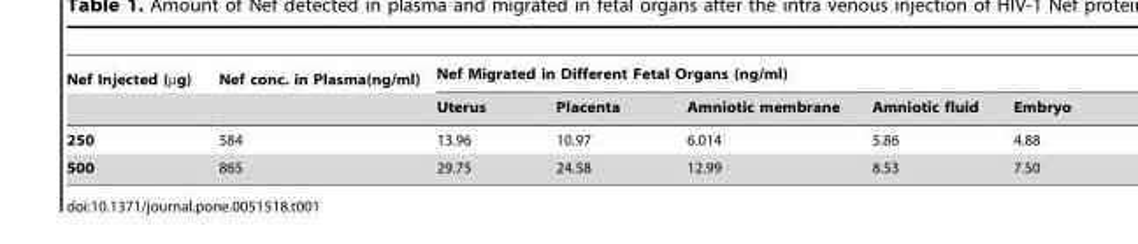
<table><thead><tr><td rowspan="2">Nef Injected (µg)</td><td rowspan="2">Nef conc. in Plasma(ng/ml)</td><td colspan="5">Nef Migrated in Different Fetal Organs (ng/ml)</td></tr><tr><td>Uterus</td><td>Placenta</td><td>Amniotic membrane</td><td>Amniotic fluid</td><td>Embryo</td></tr></thead><tbody><tr><td>250</td><td>584</td><td>13.96</td><td>10.97</td><td>6.014</td><td>5.86</td><td>4.88</td></tr><tr><td>500</td><td>865</td><td>29.75</td><td>24.58</td><td>12.99</td><td>8.53</td><td>7.50</td></tr></tbody></table>